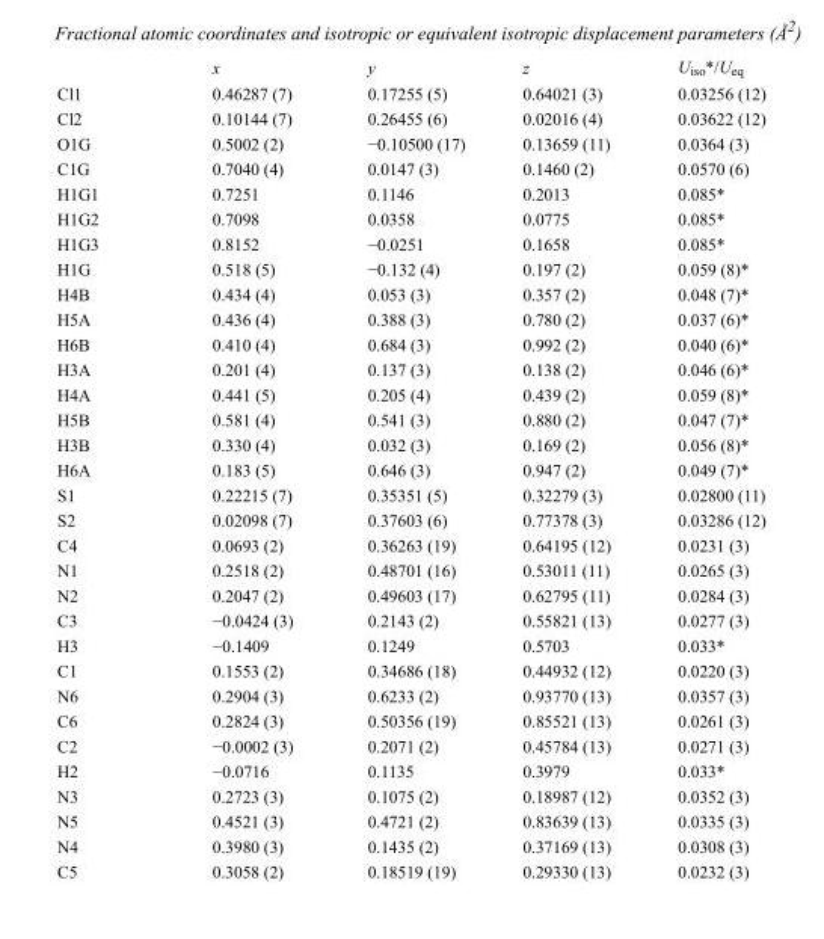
<table><thead><tr><td></td><td>x</td><td>y</td><td>z</td><td>U<sub>iso</sub>*/U<sub>eq</sub></td></tr></thead><tbody><tr><td>Cl1</td><td>0.46287 (7)</td><td>0.17255 (5)</td><td>0.64021 (3)</td><td>0.03256 (12)</td></tr><tr><td>Cl2</td><td>0.10144 (7)</td><td>0.26455 (6)</td><td>0.02016 (4)</td><td>0.03622 (12)</td></tr><tr><td>O1G</td><td>0.5002 (2)</td><td>−0.10500 (17)</td><td>0.13659 (11)</td><td>0.0364 (3)</td></tr><tr><td>C1G</td><td>0.7040 (4)</td><td>0.0147 (3)</td><td>0.1460 (2)</td><td>0.0570 (6)</td></tr><tr><td>H1G1</td><td>0.7251</td><td>0.1146</td><td>0.2013</td><td>0.085*</td></tr><tr><td>H1G2</td><td>0.7098</td><td>0.0358</td><td>0.0775</td><td>0.085*</td></tr><tr><td>H1G3</td><td>0.8152</td><td>−0.0251</td><td>0.1658</td><td>0.085*</td></tr><tr><td>H1G</td><td>0.518 (5)</td><td>−0.132 (4)</td><td>0.197 (2)</td><td>0.059 (8)*</td></tr><tr><td>H4B</td><td>0.434 (4)</td><td>0.053 (3)</td><td>0.357 (2)</td><td>0.048 (7)*</td></tr><tr><td>H5A</td><td>0.436 (4)</td><td>0.388 (3)</td><td>0.780 (2)</td><td>0.037 (6)*</td></tr><tr><td>H6B</td><td>0.410 (4)</td><td>0.684 (3)</td><td>0.992 (2)</td><td>0.040 (6)*</td></tr><tr><td>H3A</td><td>0.201 (4)</td><td>0.137 (3)</td><td>0.138 (2)</td><td>0.046 (6)*</td></tr><tr><td>H4A</td><td>0.441 (5)</td><td>0.205 (4)</td><td>0.439 (2)</td><td>0.059 (8)*</td></tr><tr><td>H5B</td><td>0.581 (4)</td><td>0.541 (3)</td><td>0.880 (2)</td><td>0.047 (7)*</td></tr><tr><td>H3B</td><td>0.330 (4)</td><td>0.032 (3)</td><td>0.169 (2)</td><td>0.056 (8)*</td></tr><tr><td>H6A</td><td>0.183 (5)</td><td>0.646 (3)</td><td>0.947 (2)</td><td>0.049 (7)*</td></tr><tr><td>S1</td><td>0.22215 (7)</td><td>0.35351 (5)</td><td>0.32279 (3)</td><td>0.02800 (11)</td></tr><tr><td>S2</td><td>0.02098 (7)</td><td>0.37603 (6)</td><td>0.77378 (3)</td><td>0.03286 (12)</td></tr><tr><td>C4</td><td>0.0693 (2)</td><td>0.36263 (19)</td><td>0.64195 (12)</td><td>0.0231 (3)</td></tr><tr><td>N1</td><td>0.2518 (2)</td><td>0.48701 (16)</td><td>0.53011 (11)</td><td>0.0265 (3)</td></tr><tr><td>N2</td><td>0.2047 (2)</td><td>0.49603 (17)</td><td>0.62795 (11)</td><td>0.0284 (3)</td></tr><tr><td>C3</td><td>−0.0424 (3)</td><td>0.2143 (2)</td><td>0.55821 (13)</td><td>0.0277 (3)</td></tr><tr><td>H3</td><td>−0.1409</td><td>0.1249</td><td>0.5703</td><td>0.033*</td></tr><tr><td>C1</td><td>0.1553 (2)</td><td>0.34686 (18)</td><td>0.44932 (12)</td><td>0.0220 (3)</td></tr><tr><td>N6</td><td>0.2904 (3)</td><td>0.6233 (2)</td><td>0.93770 (13)</td><td>0.0357 (3)</td></tr><tr><td>C6</td><td>0.2824 (3)</td><td>0.50356 (19)</td><td>0.85521 (13)</td><td>0.0261 (3)</td></tr><tr><td>C2</td><td>−0.0002 (3)</td><td>0.2071 (2)</td><td>0.45784 (13)</td><td>0.0271 (3)</td></tr><tr><td>H2</td><td>−0.0716</td><td>0.1135</td><td>0.3979</td><td>0.033*</td></tr><tr><td>N3</td><td>0.2723 (3)</td><td>0.1075 (2)</td><td>0.18987 (12)</td><td>0.0352 (3)</td></tr><tr><td>N5</td><td>0.4521 (3)</td><td>0.4721 (2)</td><td>0.83639 (13)</td><td>0.0335 (3)</td></tr><tr><td>N4</td><td>0.3980 (3)</td><td>0.1435 (2)</td><td>0.37169 (13)</td><td>0.0308 (3)</td></tr><tr><td>C5</td><td>0.3058 (2)</td><td>0.18519 (19)</td><td>0.29330 (13)</td><td>0.0232 (3)</td></tr></tbody></table>